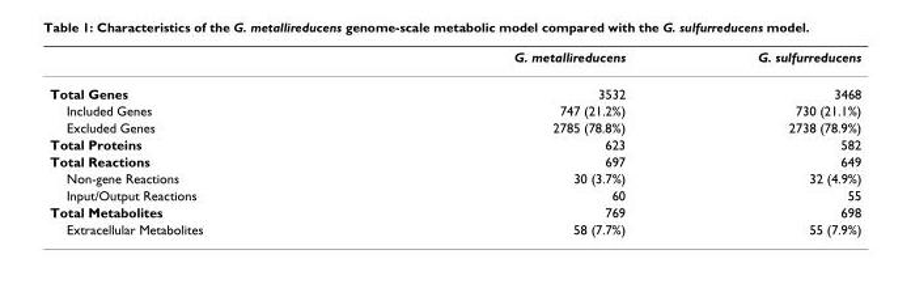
<table><thead><tr><td></td><td>G. metallireducens</td><td>G. sulfurreducens</td></tr></thead><tbody><tr><td>Total Genes</td><td>3532</td><td>3468</td></tr><tr><td>Included Genes</td><td>747 (21.2%)</td><td>730 (21.1%)</td></tr><tr><td>Excluded Genes</td><td>2785 (78.8%)</td><td>2738 (78.9%)</td></tr><tr><td>Total Proteins</td><td>623</td><td>582</td></tr><tr><td>Total Reactions</td><td>697</td><td>649</td></tr><tr><td>Non-gene Reactions</td><td>30 (3.7%)</td><td>32 (4.9%)</td></tr><tr><td>Input/Output Reactions</td><td>60</td><td>55</td></tr><tr><td>Total Metabolites</td><td>769</td><td>698</td></tr><tr><td>Extracellular Metabolites</td><td>58 (7.7%)</td><td>55 (7.9%)</td></tr></tbody></table>